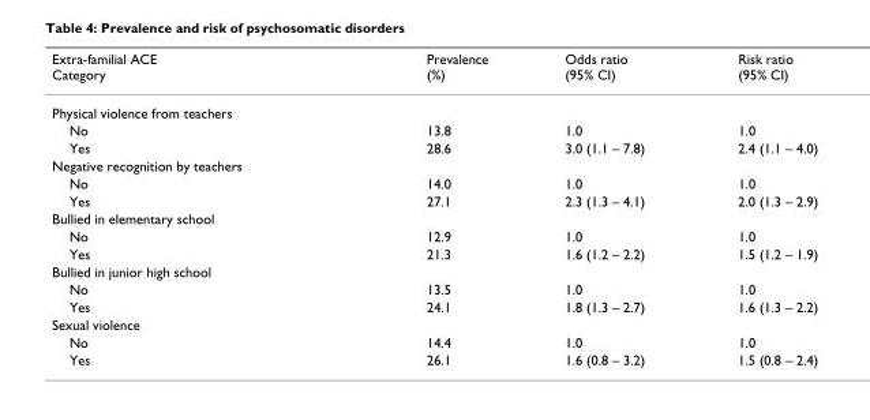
<table><thead><tr><td>Extra-familial ACE Category</td><td>Prevalence (%)</td><td>Odds ratio (95% CI)</td><td>Risk ratio (95% CI)</td></tr></thead><tbody><tr><td colspan="4">Physical violence from teachers</td></tr><tr><td>No</td><td>13.8</td><td>1.0</td><td>1.0</td></tr><tr><td>Yes</td><td>28.6</td><td>3.0 (1.1 – 7.8)</td><td>2.4 (1.1 – 4.0)</td></tr><tr><td colspan="4">Negative recognition by teachers</td></tr><tr><td>No</td><td>14.0</td><td>1.0</td><td>1.0</td></tr><tr><td>Yes</td><td>27.1</td><td>2.3 (1.3 – 4.1)</td><td>2.0 (1.3 – 2.9)</td></tr><tr><td colspan="4">Bullied in elementary school</td></tr><tr><td>No</td><td>12.9</td><td>1.0</td><td>1.0</td></tr><tr><td>Yes</td><td>21.3</td><td>1.6 (1.2 – 2.2)</td><td>1.5 (1.2 – 1.9)</td></tr><tr><td colspan="4">Bullied in junior high school</td></tr><tr><td>No</td><td>13.5</td><td>1.0</td><td>1.0</td></tr><tr><td>Yes</td><td>24.1</td><td>1.8 (1.3 – 2.7)</td><td>1.6 (1.3 – 2.2)</td></tr><tr><td colspan="4">Sexual violence</td></tr><tr><td>No</td><td>14.4</td><td>1.0</td><td>1.0</td></tr><tr><td>Yes</td><td>26.1</td><td>1.6 (0.8 – 3.2)</td><td>1.5 (0.8 – 2.4)</td></tr></tbody></table>